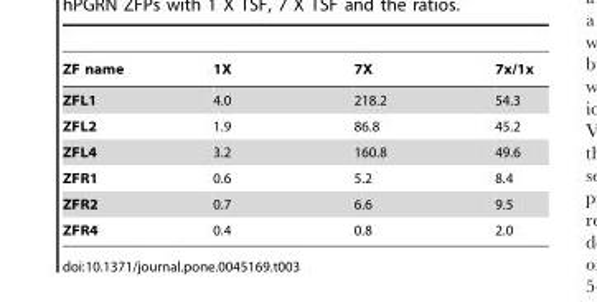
<table><thead><tr><td>ZF name</td><td>1X</td><td>7X</td><td>7x/1x</td></tr></thead><tbody><tr><td>ZFL1</td><td>4.0</td><td>218.2</td><td>54.3</td></tr><tr><td>ZFL2</td><td>1.9</td><td>86.8</td><td>45.2</td></tr><tr><td>ZFL4</td><td>3.2</td><td>160.8</td><td>49.6</td></tr><tr><td>ZFR1</td><td>0.6</td><td>5.2</td><td>8.4</td></tr><tr><td>ZFR2</td><td>0.7</td><td>6.6</td><td>9.5</td></tr><tr><td>ZFR4</td><td>0.4</td><td>0.8</td><td>2.0</td></tr></tbody></table>